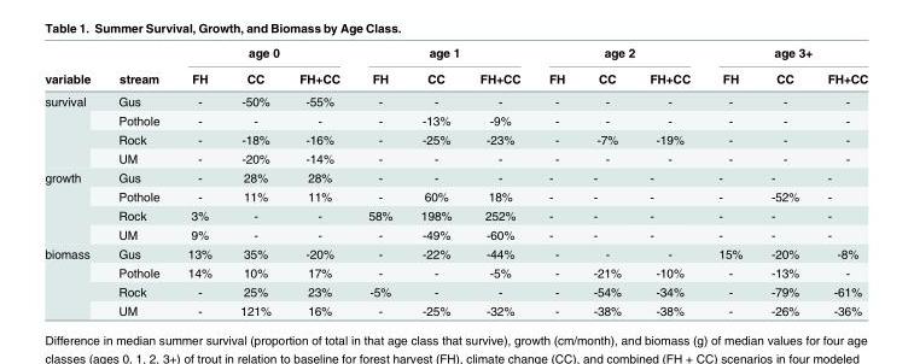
<table><thead><tr><td rowspan="2">variable</td><td rowspan="2">stream</td><td colspan="3">age 0</td><td colspan="3">age 1</td><td colspan="3">age 2</td><td colspan="3">age 3+</td></tr><tr><td>FH</td><td>CC</td><td>FH+CC</td><td>FH</td><td>CC</td><td>FH+CC</td><td>FH</td><td>CC</td><td>FH+CC</td><td>FH</td><td>CC</td><td>FH+CC</td></tr></thead><tbody><tr><td rowspan="4">survival</td><td>Gus</td><td>-</td><td>-50%</td><td>-55%</td><td>-</td><td>-</td><td>-</td><td>-</td><td>-</td><td>-</td><td>-</td><td>-</td><td>-</td></tr><tr><td>Pothole</td><td>-</td><td>-</td><td>-</td><td>-</td><td>-13%</td><td>-9%</td><td>-</td><td>-</td><td>-</td><td>-</td><td>-</td><td>-</td></tr><tr><td>Rock</td><td>-</td><td>-18%</td><td>-16%</td><td>-</td><td>-25%</td><td>-23%</td><td>-</td><td>-7%</td><td>-19%</td><td>-</td><td>-</td><td>-</td></tr><tr><td>UM</td><td>-</td><td>-20%</td><td>-14%</td><td>-</td><td>-</td><td>-</td><td>-</td><td>-</td><td>-</td><td>-</td><td>-</td><td>-</td></tr><tr><td rowspan="4">growth</td><td>Gus</td><td>-</td><td>28%</td><td>28%</td><td>-</td><td>-</td><td>-</td><td>-</td><td>-</td><td>-</td><td>-</td><td>-</td><td>-</td></tr><tr><td>Pothole</td><td>-</td><td>11%</td><td>11%</td><td>-</td><td>60%</td><td>18%</td><td>-</td><td>-</td><td>-</td><td>-</td><td>-52%</td><td>-</td></tr><tr><td>Rock</td><td>3%</td><td>-</td><td>-</td><td>58%</td><td>198%</td><td>252%</td><td>-</td><td>-</td><td>-</td><td>-</td><td>-</td><td>-</td></tr><tr><td>UM</td><td>9%</td><td>-</td><td>-</td><td>-</td><td>-49%</td><td>-60%</td><td>-</td><td>-</td><td>-</td><td>-</td><td>-</td><td>-</td></tr><tr><td rowspan="4">biomass</td><td>Gus</td><td>13%</td><td>35%</td><td>-20%</td><td>-</td><td>-22%</td><td>-44%</td><td>-</td><td>-</td><td>-</td><td>15%</td><td>-20%</td><td>-8%</td></tr><tr><td>Pothole</td><td>14%</td><td>10%</td><td>17%</td><td>-</td><td>-</td><td>-5%</td><td>-</td><td>-21%</td><td>-10%</td><td>-</td><td>-13%</td><td>-</td></tr><tr><td>Rock</td><td>-</td><td>25%</td><td>23%</td><td>-5%</td><td>-</td><td>-</td><td>-</td><td>-54%</td><td>-34%</td><td>-</td><td>-79%</td><td>-61%</td></tr><tr><td>UM</td><td>-</td><td>121%</td><td>16%</td><td>-</td><td>-25%</td><td>-32%</td><td>-</td><td>-38%</td><td>-38%</td><td>-</td><td>-26%</td><td>-36%</td></tr></tbody></table>